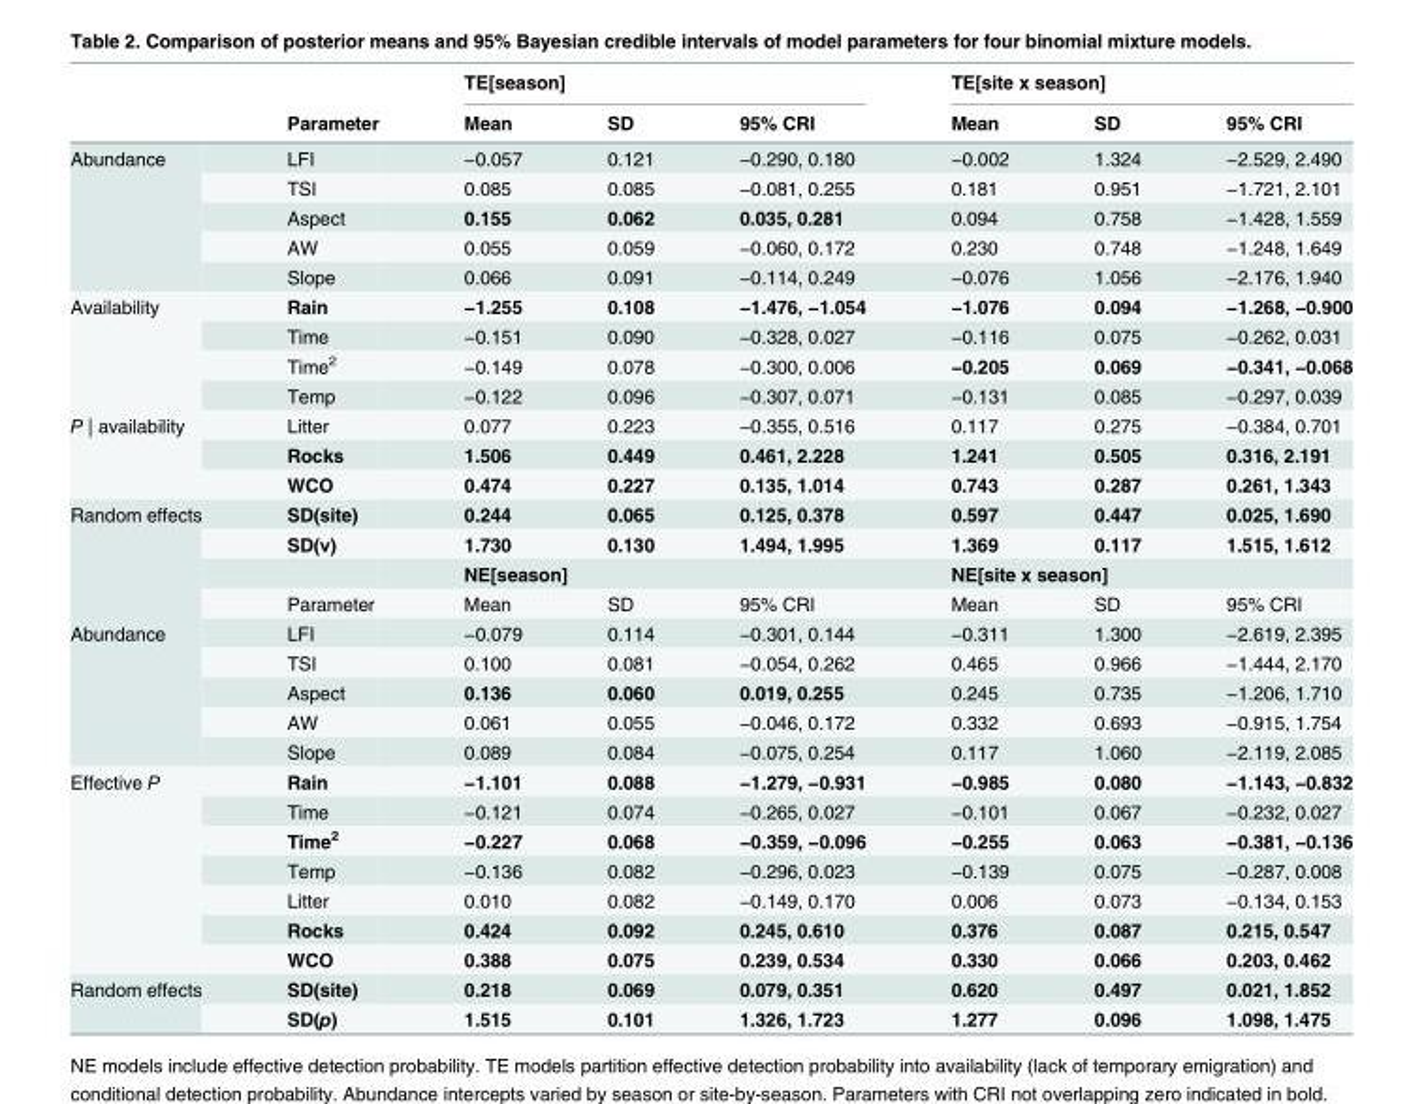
<table><thead><tr><td rowspan="2"></td><td rowspan="2">Parameter</td><td colspan="3">TE[season]</td><td colspan="3">TE[site x season]</td></tr><tr><td>Mean</td><td>SD</td><td>95% CRI</td><td>Mean</td><td>SD</td><td>95% CRI</td></tr></thead><tbody><tr><td rowspan="5">Abundance</td><td>LFI</td><td>−0.057</td><td>0.121</td><td>−0.290, 0.180</td><td>−0.002</td><td>1.324</td><td>−2.529, 2.490</td></tr><tr><td>TSI</td><td>0.085</td><td>0.085</td><td>−0.081, 0.255</td><td>0.181</td><td>0.951</td><td>−1.721, 2.101</td></tr><tr><td>Aspect</td><td>0.155</td><td>0.062</td><td>0.035, 0.281</td><td>0.094</td><td>0.758</td><td>−1.428, 1.559</td></tr><tr><td>AW</td><td>0.055</td><td>0.059</td><td>−0.060, 0.172</td><td>0.230</td><td>0.748</td><td>−1.248, 1.649</td></tr><tr><td>Slope</td><td>0.066</td><td>0.091</td><td>−0.114, 0.249</td><td>−0.076</td><td>1.056</td><td>−2.176, 1.940</td></tr><tr><td rowspan="4">Availability</td><td>Rain</td><td>−1.255</td><td>0.108</td><td>−1.476, −1.054</td><td>−1.076</td><td>0.094</td><td>−1.268, −0.900</td></tr><tr><td>Time</td><td>−0.151</td><td>0.090</td><td>−0.328, 0.027</td><td>−0.116</td><td>0.075</td><td>−0.262, 0.031</td></tr><tr><td>Time<sup>2</sup></td><td>−0.149</td><td>0.078</td><td>−0.300, 0.006</td><td>−0.205</td><td>0.069</td><td>−0.341, −0.068</td></tr><tr><td>Temp</td><td>−0.122</td><td>0.096</td><td>−0.307, 0.071</td><td>−0.131</td><td>0.085</td><td>−0.297, 0.039</td></tr><tr><td rowspan="3">P | availability</td><td>Litter</td><td>0.077</td><td>0.223</td><td>−0.355, 0.516</td><td>0.117</td><td>0.275</td><td>−0.384, 0.701</td></tr><tr><td>Rocks</td><td>1.506</td><td>0.449</td><td>0.461, 2.228</td><td>1.241</td><td>0.505</td><td>0.316, 2.191</td></tr><tr><td>WCO</td><td>0.474</td><td>0.227</td><td>0.135, 1.014</td><td>0.743</td><td>0.287</td><td>0.261, 1.343</td></tr><tr><td rowspan="4">Random effects</td><td>SD(site)</td><td>0.244</td><td>0.065</td><td>0.125, 0.378</td><td>0.597</td><td>0.447</td><td>0.025, 1.690</td></tr><tr><td>SD(ν)</td><td>1.730</td><td>0.130</td><td>1.494, 1.995</td><td>1.369</td><td>0.117</td><td>1.515, 1.612</td></tr><tr><td></td><td colspan="3">NE[season]</td><td colspan="3">NE[site x season]</td></tr><tr><td>Parameter</td><td>Mean</td><td>SD</td><td>95% CRI</td><td>Mean</td><td>SD</td><td>95% CRI</td></tr><tr><td rowspan="5">Abundance</td><td>LFI</td><td>−0.079</td><td>0.114</td><td>−0.301, 0.144</td><td>−0.311</td><td>1.300</td><td>−2.619, 2.395</td></tr><tr><td>TSI</td><td>0.100</td><td>0.081</td><td>−0.054, 0.262</td><td>0.465</td><td>0.966</td><td>−1.444, 2.170</td></tr><tr><td>Aspect</td><td>0.136</td><td>0.060</td><td>0.019, 0.255</td><td>0.245</td><td>0.735</td><td>−1.206, 1.710</td></tr><tr><td>AW</td><td>0.061</td><td>0.055</td><td>−0.046, 0.172</td><td>0.332</td><td>0.693</td><td>−0.915, 1.754</td></tr><tr><td>Slope</td><td>0.089</td><td>0.084</td><td>−0.075, 0.254</td><td>0.117</td><td>1.060</td><td>−2.119, 2.085</td></tr><tr><td rowspan="7">Effective P</td><td>Rain</td><td>−1.101</td><td>0.088</td><td>−1.279, −0.931</td><td>−0.985</td><td>0.080</td><td>−1.143, −0.832</td></tr><tr><td>Time</td><td>−0.121</td><td>0.074</td><td>−0.265, 0.027</td><td>−0.101</td><td>0.067</td><td>−0.232, 0.027</td></tr><tr><td>Time<sup>2</sup></td><td>−0.227</td><td>0.068</td><td>−0.359, −0.096</td><td>−0.255</td><td>0.063</td><td>−0.381, −0.136</td></tr><tr><td>Temp</td><td>−0.136</td><td>0.082</td><td>−0.296, 0.023</td><td>−0.139</td><td>0.075</td><td>−0.287, 0.008</td></tr><tr><td>Litter</td><td>0.010</td><td>0.082</td><td>−0.149, 0.170</td><td>0.006</td><td>0.073</td><td>−0.134, 0.153</td></tr><tr><td>Rocks</td><td>0.424</td><td>0.092</td><td>0.245, 0.610</td><td>0.376</td><td>0.087</td><td>0.215, 0.547</td></tr><tr><td>WCO</td><td>0.388</td><td>0.075</td><td>0.239, 0.534</td><td>0.330</td><td>0.066</td><td>0.203, 0.462</td></tr><tr><td rowspan="2">Random effects</td><td>SD(site)</td><td>0.218</td><td>0.069</td><td>0.079, 0.351</td><td>0.620</td><td>0.497</td><td>0.021, 1.852</td></tr><tr><td>SD(p)</td><td>1.515</td><td>0.101</td><td>1.326, 1.723</td><td>1.277</td><td>0.096</td><td>1.098, 1.475</td></tr></tbody></table>